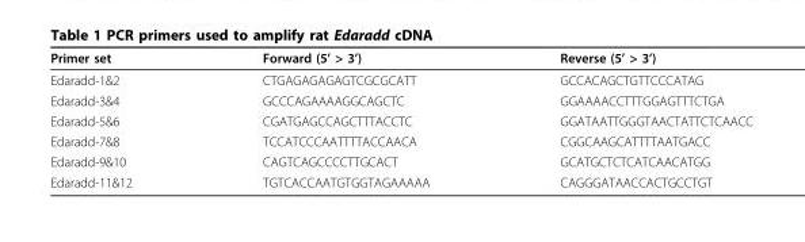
<table><thead><tr><td>Primer set</td><td>Forward (5’ &gt; 3’)</td><td>Reverse (5’ &gt; 3’)</td></tr></thead><tbody><tr><td>Edaradd-1&amp;2</td><td>CTGAGAGAGAGTCGCGCATT</td><td>GCCACAGCTGTTCCCATAG</td></tr><tr><td>Edaradd-3&amp;4</td><td>GCCCAGAAAAGGCAGCTC</td><td>GGAAAACCTTTGGAGTTTCTGA</td></tr><tr><td>Edaradd-5&amp;6</td><td>CGATGAGCCAGCTTTACCTC</td><td>GGATAATTGGGTAACTATTCTCAACC</td></tr><tr><td>Edaradd-7&amp;8</td><td>TCCATCCCAATTTTACCAACA</td><td>CGGCAAGCATTTTAATGACC</td></tr><tr><td>Edaradd-9&amp;10</td><td>CAGTCAGCCCCTTGCACT</td><td>GCATGCTCTCATCAACATGG</td></tr><tr><td>Edaradd-11&amp;12</td><td>TGTCACCAATGTGGTAGAAAAA</td><td>CAGGGATAACCACTGCCTGT</td></tr></tbody></table>